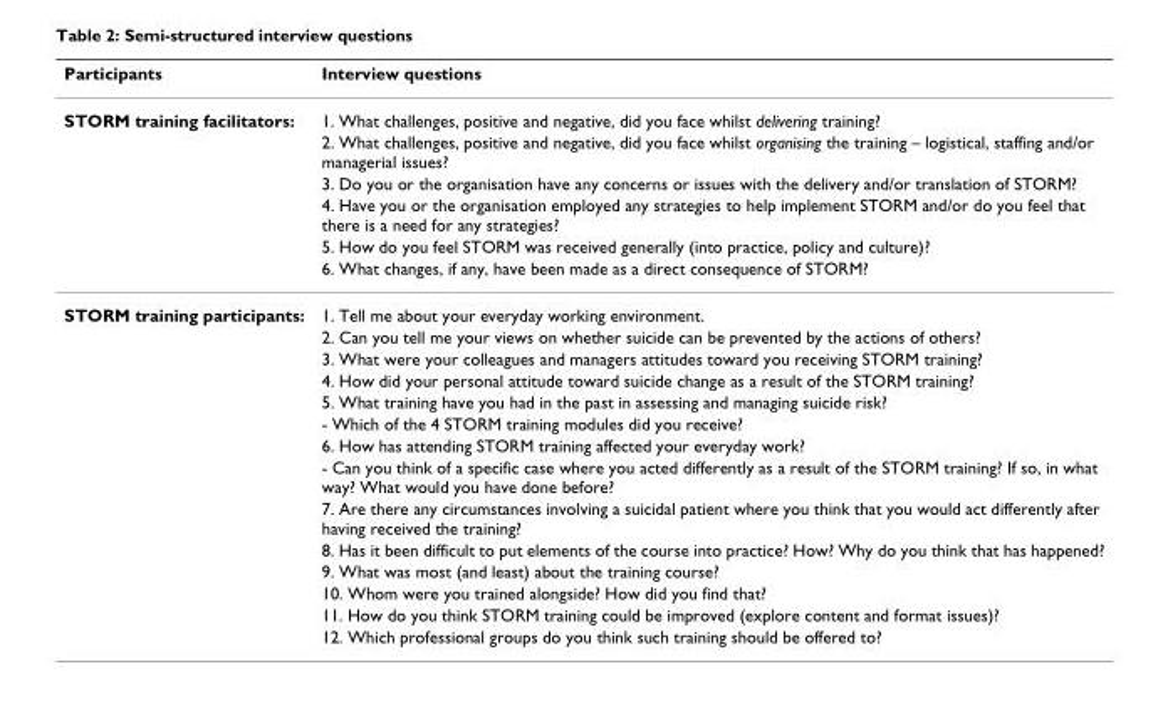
<table><thead><tr><td>Participants</td><td>Interview questions</td></tr></thead><tbody><tr><td rowspan="6">STORM training facilitators:</td><td>1. What challenges, positive and negative, did you face whilst delivering training?</td></tr><tr><td>2. What challenges, positive and negative, did you face whilst organising the training – logistical, staffing and/or managerial issues?</td></tr><tr><td>3. Do you or the organisation have any concerns or issues with the delivery and/or translation of STORM?</td></tr><tr><td>4. Have you or the organisation employed any strategies to help implement STORM and/or do you feel that there is a need for any strategies?</td></tr><tr><td>5. How do you feel STORM was received generally (into practice, policy and culture)?</td></tr><tr><td>6. What changes, if any, have been made as a direct consequence of STORM?</td></tr><tr><td rowspan="14">STORM training participants:</td><td>1. Tell me about your everyday working environment.</td></tr><tr><td>2. Can you tell me your views on whether suicide can be prevented by the actions of others?</td></tr><tr><td>3. What were your colleagues and managers attitudes toward you receiving STORM training?</td></tr><tr><td>4. How did your personal attitude toward suicide change as a result of the STORM training?</td></tr><tr><td>5. What training have you had in the past in assessing and managing suicide risk?</td></tr><tr><td>- Which of the 4 STORM training modules did you receive?</td></tr><tr><td>6. How has attending STORM training affected your everyday work?</td></tr><tr><td>- Can you think of a specific case where you acted differently as a result of the STORM training? If so, in what way? What would you have done before?</td></tr><tr><td>7. Are there any circumstances involving a suicidal patient where you think that you would act differently after having received the training?</td></tr><tr><td>8. Has it been difficult to put elements of the course into practice? How? Why do you think that has happened?</td></tr><tr><td>9. What was most (and least) about the training course?</td></tr><tr><td>10. Whom were you trained alongside? How did you find that?</td></tr><tr><td>11. How do you think STORM training could be improved (explore content and format issues)?</td></tr><tr><td>12. Which professional groups do you think such training should be offered to?</td></tr></tbody></table>